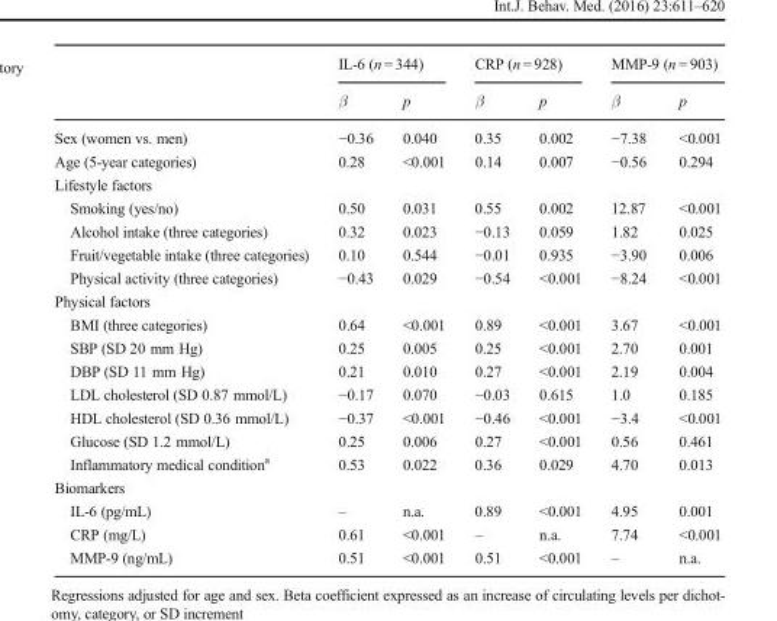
<table><thead><tr><td rowspan="2"></td><td colspan="2">IL-6 (n = 344)</td><td colspan="2">CRP (n = 928)</td><td colspan="2">MMP-9 (n = 903)</td></tr><tr><td>β</td><td>p</td><td>β</td><td>p</td><td>β</td><td>p</td></tr></thead><tbody><tr><td>Sex (women vs. men)</td><td>−0.36</td><td>0.040</td><td>0.35</td><td>0.002</td><td>−7.38</td><td>&lt;0.001</td></tr><tr><td>Age (5-year categories)</td><td>0.28</td><td>&lt;0.001</td><td>0.14</td><td>0.007</td><td>−0.56</td><td>0.294</td></tr><tr><td colspan="7">Lifestyle factors</td></tr><tr><td>Smoking (yes/no)</td><td>0.50</td><td>0.031</td><td>0.55</td><td>0.002</td><td>12.87</td><td>&lt;0.001</td></tr><tr><td>Alcohol intake (three categories)</td><td>0.32</td><td>0.023</td><td>−0.13</td><td>0.059</td><td>1.82</td><td>0.025</td></tr><tr><td>Fruit/vegetable intake (three categories)</td><td>0.10</td><td>0.544</td><td>−0.01</td><td>0.935</td><td>−3.90</td><td>0.006</td></tr><tr><td>Physical activity (three categories)</td><td>−0.43</td><td>0.029</td><td>−0.54</td><td>&lt;0.001</td><td>−8.24</td><td>&lt;0.001</td></tr><tr><td colspan="7">Physical factors</td></tr><tr><td>BMI (three categories)</td><td>0.64</td><td>&lt;0.001</td><td>0.89</td><td>&lt;0.001</td><td>3.67</td><td>&lt;0.001</td></tr><tr><td>SBP (SD 20 mm Hg)</td><td>0.25</td><td>0.005</td><td>0.25</td><td>&lt;0.001</td><td>2.70</td><td>0.001</td></tr><tr><td>DBP (SD 11 mm Hg)</td><td>0.21</td><td>0.010</td><td>0.27</td><td>&lt;0.001</td><td>2.19</td><td>0.004</td></tr><tr><td>LDL cholesterol (SD 0.87 mmol/L)</td><td>−0.17</td><td>0.070</td><td>−0.03</td><td>0.615</td><td>1.0</td><td>0.185</td></tr><tr><td>HDL cholesterol (SD 0.36 mmol/L)</td><td>−0.37</td><td>&lt;0.001</td><td>−0.46</td><td>&lt;0.001</td><td>−3.4</td><td>&lt;0.001</td></tr><tr><td>Glucose (SD 1.2 mmol/L)</td><td>0.25</td><td>0.006</td><td>0.27</td><td>&lt;0.001</td><td>0.56</td><td>0.461</td></tr><tr><td>Inflammatory medical condition<sup>a</sup></td><td>0.53</td><td>0.022</td><td>0.36</td><td>0.029</td><td>4.70</td><td>0.013</td></tr><tr><td colspan="7">Biomarkers</td></tr><tr><td>IL-6 (pg/mL)</td><td>–</td><td>n.a.</td><td>0.89</td><td>&lt;0.001</td><td>4.95</td><td>0.001</td></tr><tr><td>CRP (mg/L)</td><td>0.61</td><td>&lt;0.001</td><td>–</td><td>n.a.</td><td>7.74</td><td>&lt;0.001</td></tr><tr><td>MMP-9 (ng/mL)</td><td>0.51</td><td>&lt;0.001</td><td>0.51</td><td>&lt;0.001</td><td>–</td><td>n.a.</td></tr></tbody></table>